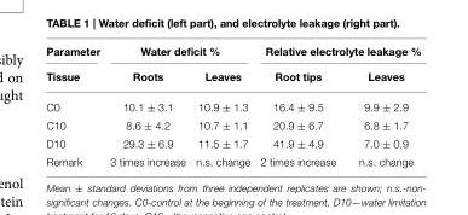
<table><thead><tr><td rowspan="2">Parameter Tissue</td><td colspan="2">Water deficit %</td><td colspan="2">Relative electrolyte leakage %</td></tr><tr><td>Roots</td><td>Leaves</td><td>Root tips</td><td>Leaves</td></tr></thead><tbody><tr><td>C0</td><td>10.1 ± 3.1</td><td>10.9 ± 1.3</td><td>16.4 ± 9.5</td><td>9.9 ± 2.9</td></tr><tr><td>C10</td><td>8.6 ± 4.2</td><td>10.7 ± 1.1</td><td>20.9 ± 6.7</td><td>6.8 ± 1.7</td></tr><tr><td>D10</td><td>29.3 ± 6.9</td><td>11.5 ± 1.7</td><td>41.9 ± 4.9</td><td>7.0 ± 0.9</td></tr><tr><td>Remark</td><td>3 times increase</td><td>n.s. change</td><td>2 times increase</td><td>n.s. change</td></tr></tbody></table>